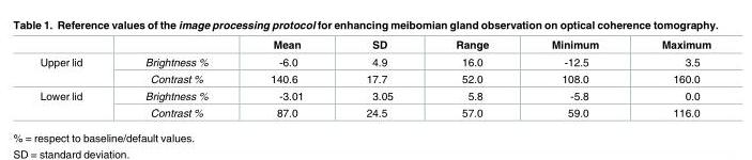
<table><thead><tr><td></td><td></td><td>Mean</td><td>SD</td><td>Range</td><td>Minimum</td><td>Maximum</td></tr></thead><tbody><tr><td rowspan="2">Upper lid</td><td>Brightness %</td><td>-6.0</td><td>4.9</td><td>16.0</td><td>-12.5</td><td>3.5</td></tr><tr><td>Contrast %</td><td>140.6</td><td>17.7</td><td>52.0</td><td>108.0</td><td>160.0</td></tr><tr><td rowspan="2">Lower lid</td><td>Brightness %</td><td>-3.01</td><td>3.05</td><td>5.8</td><td>-5.8</td><td>0.0</td></tr><tr><td>Contrast %</td><td>87.0</td><td>24.5</td><td>57.0</td><td>59.0</td><td>116.0</td></tr></tbody></table>